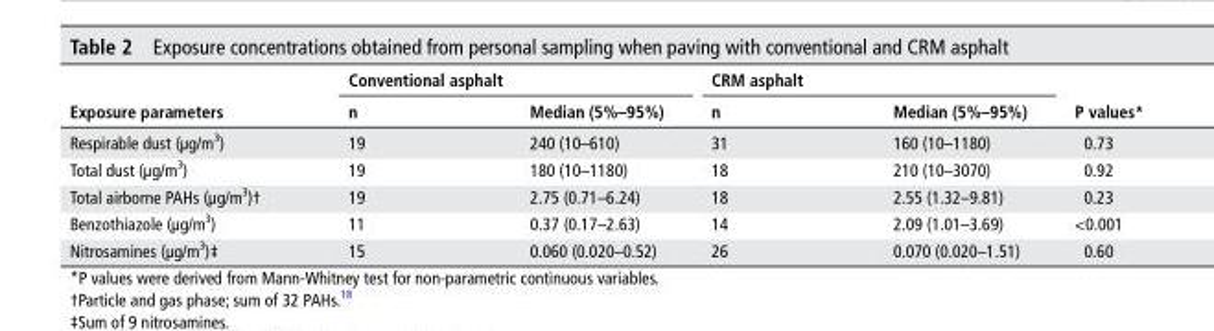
<table><thead><tr><td rowspan="2">exposure parameters</td><td colspan="2">Conventional asphalt</td><td colspan="2">CrM asphalt</td><td rowspan="2">P values*</td></tr><tr><td>n</td><td>Median (5%–95%)</td><td>n</td><td>Median (5%–95%)</td></tr></thead><tbody><tr><td>Respirable dust (µg/m<sup>3</sup>)</td><td>19</td><td>240 (10–610)</td><td>31</td><td>160 (10–1180)</td><td>0.73</td></tr><tr><td>Total dust (µg/m<sup>3</sup>)</td><td>19</td><td>180 (10–1180)</td><td>18</td><td>210 (10–3070)</td><td>0.92</td></tr><tr><td>Total airborne PAHs (µg/m<sup>3</sup>)†</td><td>19</td><td>2.75 (0.71–6.24)</td><td>18</td><td>2.55 (1.32–9.81)</td><td>0.23</td></tr><tr><td>Benzothiazole (µg/m<sup>3</sup>)</td><td>11</td><td>0.37 (0.17–2.63)</td><td>14</td><td>2.09 (1.01–3.69)</td><td>&lt;0.001</td></tr><tr><td>Nitrosamines (µg/m<sup>3</sup>)‡</td><td>15</td><td>0.060 (0.020–0.52)</td><td>26</td><td>0.070 (0.020–1.51)</td><td>0.60</td></tr></tbody></table>